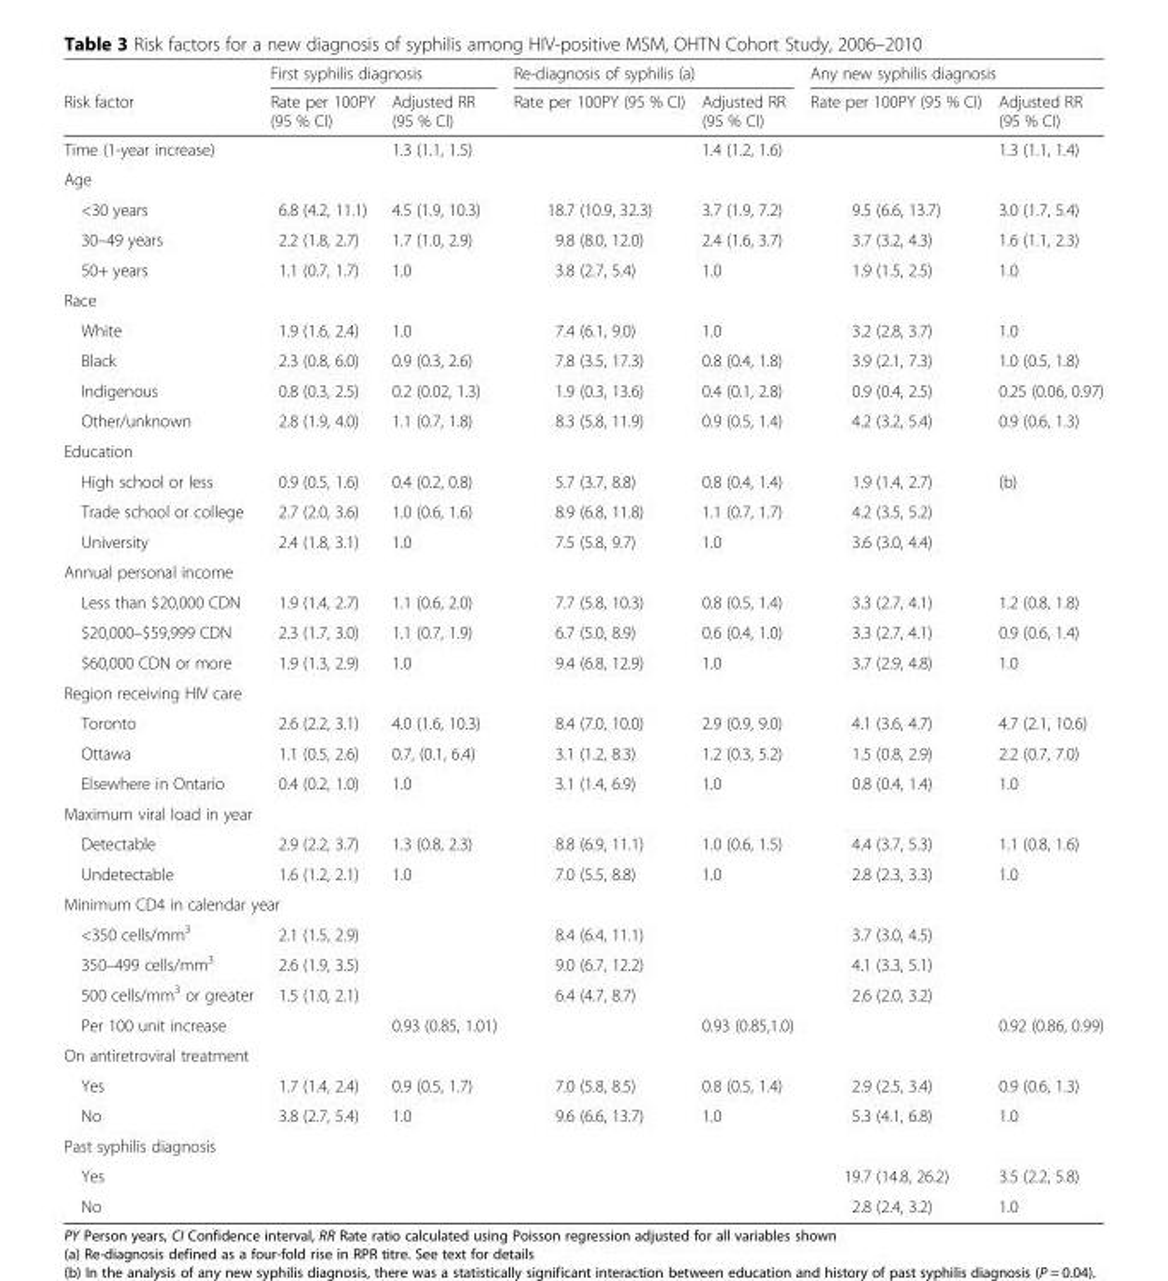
<table><thead><tr><td rowspan="2">Risk factor</td><td colspan="2">First syphilis diagnosis</td><td colspan="2">Re-diagnosis of syphilis (a)</td><td colspan="2">Any new syphilis diagnosis</td></tr><tr><td>Rate per 100PY (95 % CI)</td><td>Adjusted RR (95 % CI)</td><td>Rate per 100PY (95 % CI)</td><td>Adjusted RR (95 % CI)</td><td>Rate per 100PY (95 % CI)</td><td>Adjusted RR (95 % CI)</td></tr></thead><tbody><tr><td>Time (1-year increase)</td><td></td><td>1.3 (1.1, 1.5)</td><td></td><td>1.4 (1.2, 1.6)</td><td></td><td>1.3 (1.1, 1.4)</td></tr><tr><td colspan="7">Age</td></tr><tr><td>&lt;30 years</td><td>6.8 (4.2, 11.1)</td><td>4.5 (1.9, 10.3)</td><td>18.7 (10.9, 32.3)</td><td>3.7 (1.9, 7.2)</td><td>9.5 (6.6, 13.7)</td><td>3.0 (1.7, 5.4)</td></tr><tr><td>30–49 years</td><td>2.2 (1.8, 2.7)</td><td>1.7 (1.0, 2.9)</td><td>9.8 (8.0, 12.0)</td><td>2.4 (1.6, 3.7)</td><td>3.7 (3.2, 4.3)</td><td>1.6 (1.1, 2.3)</td></tr><tr><td>50+ years</td><td>1.1 (0.7, 1.7)</td><td>1.0</td><td>3.8 (2.7, 5.4)</td><td>1.0</td><td>1.9 (1.5, 2.5)</td><td>1.0</td></tr><tr><td colspan="7">Race</td></tr><tr><td>White</td><td>1.9 (1.6, 2.4)</td><td>1.0</td><td>7.4 (6.1, 9.0)</td><td>1.0</td><td>3.2 (2.8, 3.7)</td><td>1.0</td></tr><tr><td>Black</td><td>2.3 (0.8, 6.0)</td><td>0.9 (0.3, 2.6)</td><td>7.8 (3.5, 17.3)</td><td>0.8 (0.4, 1.8)</td><td>3.9 (2.1, 7.3)</td><td>1.0 (0.5, 1.8)</td></tr><tr><td>Indigenous</td><td>0.8 (0.3, 2.5)</td><td>0.2 (0.02, 1.3)</td><td>1.9 (0.3, 13.6)</td><td>0.4 (0.1, 2.8)</td><td>0.9 (0.4, 2.5)</td><td>0.25 (0.06, 0.97)</td></tr><tr><td>Other/unknown</td><td>2.8 (1.9, 4.0)</td><td>1.1 (0.7, 1.8)</td><td>8.3 (5.8, 11.9)</td><td>0.9 (0.5, 1.4)</td><td>4.2 (3.2, 5.4)</td><td>0.9 (0.6, 1.3)</td></tr><tr><td colspan="7">Education</td></tr><tr><td>High school or less</td><td>0.9 (0.5, 1.6)</td><td>0.4 (0.2, 0.8)</td><td>5.7 (3.7, 8.8)</td><td>0.8 (0.4, 1.4)</td><td>1.9 (1.4, 2.7)</td><td>(b)</td></tr><tr><td>Trade school or college</td><td>2.7 (2.0, 3.6)</td><td>1.0 (0.6, 1.6)</td><td>8.9 (6.8, 11.8)</td><td>1.1 (0.7, 1.7)</td><td>4.2 (3.5, 5.2)</td><td></td></tr><tr><td>University</td><td>2.4 (1.8, 3.1)</td><td>1.0</td><td>7.5 (5.8, 9.7)</td><td>1.0</td><td>3.6 (3.0, 4.4)</td><td></td></tr><tr><td colspan="7">Annual personal income</td></tr><tr><td>Less than $20,000 CDN</td><td>1.9 (1.4, 2.7)</td><td>1.1 (0.6, 2.0)</td><td>7.7 (5.8, 10.3)</td><td>0.8 (0.5, 1.4)</td><td>3.3 (2.7, 4.1)</td><td>1.2 (0.8, 1.8)</td></tr><tr><td>$20,000–$59,999 CDN</td><td>2.3 (1.7, 3.0)</td><td>1.1 (0.7, 1.9)</td><td>6.7 (5.0, 8.9)</td><td>0.6 (0.4, 1.0)</td><td>3.3 (2.7, 4.1)</td><td>0.9 (0.6, 1.4)</td></tr><tr><td>$60,000 CDN or more</td><td>1.9 (1.3, 2.9)</td><td>1.0</td><td>9.4 (6.8, 12.9)</td><td>1.0</td><td>3.7 (2.9, 4.8)</td><td>1.0</td></tr><tr><td colspan="7">Region receiving HIV care</td></tr><tr><td>Toronto</td><td>2.6 (2.2, 3.1)</td><td>4.0 (1.6, 10.3)</td><td>8.4 (7.0, 10.0)</td><td>2.9 (0.9, 9.0)</td><td>4.1 (3.6, 4.7)</td><td>4.7 (2.1, 10.6)</td></tr><tr><td>Ottawa</td><td>1.1 (0.5, 2.6)</td><td>0.7, (0.1, 6.4)</td><td>3.1 (1.2, 8.3)</td><td>1.2 (0.3, 5.2)</td><td>1.5 (0.8, 2.9)</td><td>2.2 (0.7, 7.0)</td></tr><tr><td>Elsewhere in Ontario</td><td>0.4 (0.2, 1.0)</td><td>1.0</td><td>3.1 (1.4, 6.9)</td><td>1.0</td><td>0.8 (0.4, 1.4)</td><td>1.0</td></tr><tr><td colspan="7">Maximum viral load in year</td></tr><tr><td>Detectable</td><td>2.9 (2.2, 3.7)</td><td>1.3 (0.8, 2.3)</td><td>8.8 (6.9, 11.1)</td><td>1.0 (0.6, 1.5)</td><td>4.4 (3.7, 5.3)</td><td>1.1 (0.8, 1.6)</td></tr><tr><td>Undetectable</td><td>1.6 (1.2, 2.1)</td><td>1.0</td><td>7.0 (5.5, 8.8)</td><td>1.0</td><td>2.8 (2.3, 3.3)</td><td>1.0</td></tr><tr><td colspan="7">Minimum CD4 in calendar year</td></tr><tr><td>&lt;350 cells/mm<sup>3</sup></td><td>2.1 (1.5, 2.9)</td><td></td><td>8.4 (6.4, 11.1)</td><td></td><td>3.7 (3.0, 4.5)</td><td></td></tr><tr><td>350–499 cells/mm<sup>3</sup></td><td>2.6 (1.9, 3.5)</td><td></td><td>9.0 (6.7, 12.2)</td><td></td><td>4.1 (3.3, 5.1)</td><td></td></tr><tr><td>500 cells/mm<sup>3</sup> or greater</td><td>1.5 (1.0, 2.1)</td><td></td><td>6.4 (4.7, 8.7)</td><td></td><td>2.6 (2.0, 3.2)</td><td></td></tr><tr><td>Per 100 unit increase</td><td></td><td>0.93 (0.85, 1.01)</td><td></td><td>0.93 (0.85,1.0)</td><td></td><td>0.92 (0.86, 0.99)</td></tr><tr><td colspan="7">On antiretroviral treatment</td></tr><tr><td>Yes</td><td>1.7 (1.4, 2.4)</td><td>0.9 (0.5, 1.7)</td><td>7.0 (5.8, 8.5)</td><td>0.8 (0.5, 1.4)</td><td>2.9 (2.5, 3.4)</td><td>0.9 (0.6, 1.3)</td></tr><tr><td>No</td><td>3.8 (2.7, 5.4)</td><td>1.0</td><td>9.6 (6.6, 13.7)</td><td>1.0</td><td>5.3 (4.1, 6.8)</td><td>1.0</td></tr><tr><td colspan="7">Past syphilis diagnosis</td></tr><tr><td>Yes</td><td></td><td></td><td></td><td></td><td>19.7 (14.8, 26.2)</td><td>3.5 (2.2, 5.8)</td></tr><tr><td>No</td><td></td><td></td><td></td><td></td><td>2.8 (2.4, 3.2)</td><td>1.0</td></tr></tbody></table>